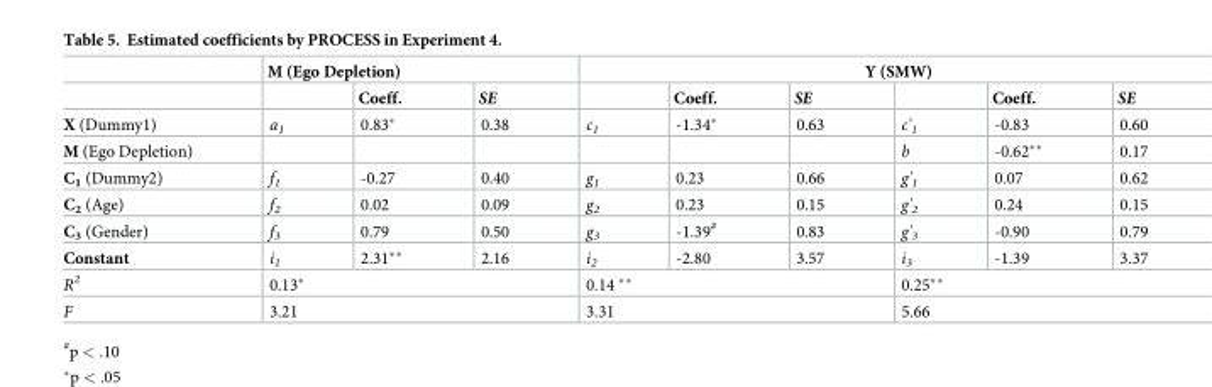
<table><thead><tr><td rowspan="2"></td><td colspan="3">M (Ego Depletion)</td><td colspan="6">Y (SMW)</td></tr><tr><td></td><td>Coeff.</td><td>SE</td><td></td><td>Coeff.</td><td>SE</td><td></td><td>Coeff.</td><td>SE</td></tr></thead><tbody><tr><td>X (Dummy1)</td><td>a<sub>1</sub></td><td>0.83*</td><td>0.38</td><td>c<sub>1</sub></td><td>-1.34*</td><td>0.63</td><td>c&#x27;<sub>1</sub></td><td>-0.83</td><td>0.60</td></tr><tr><td>M (Ego Depletion)</td><td></td><td></td><td></td><td></td><td></td><td></td><td>b</td><td>-0.62**</td><td>0.17</td></tr><tr><td>C<sub>1</sub> (Dummy2)</td><td>f<sub>1</sub></td><td>-0.27</td><td>0.40</td><td>g<sub>1</sub></td><td>0.23</td><td>0.66</td><td>g&#x27;<sub>1</sub></td><td>0.07</td><td>0.62</td></tr><tr><td>C<sub>2</sub> (Age)</td><td>f<sub>2</sub></td><td>0.02</td><td>0.09</td><td>g<sub>2</sub></td><td>0.23</td><td>0.15</td><td>g&#x27;<sub>2</sub></td><td>0.24</td><td>0.15</td></tr><tr><td>C<sub>3</sub> (Gender)</td><td>f<sub>3</sub></td><td>0.79</td><td>0.50</td><td>g<sub>3</sub></td><td>-1.39<sup>#</sup></td><td>0.83</td><td>g&#x27;<sub>3</sub></td><td>-0.90</td><td>0.79</td></tr><tr><td>Constant</td><td>i<sub>1</sub></td><td>2.31**</td><td>2.16</td><td>i<sub>2</sub></td><td>-2.80</td><td>3.57</td><td>i<sub>3</sub></td><td>-1.39</td><td>3.37</td></tr><tr><td>R<sup>2</sup></td><td colspan="3">0.13*</td><td colspan="3">0.14 **</td><td colspan="3">0.25**</td></tr><tr><td>F</td><td colspan="3">3.21</td><td colspan="3">3.31</td><td colspan="3">5.66</td></tr></tbody></table>